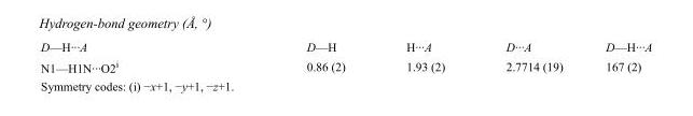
<table><tbody><tr><td>D—H···A</td><td>D—H</td><td>H···A</td><td>D···A</td><td>D—H···A</td></tr><tr><td>N1—H1N···O2<sup>i</sup></td><td>0.86 (2)</td><td>1.93 (2)</td><td>2.7714 (19)</td><td>167 (2)</td></tr></tbody></table>